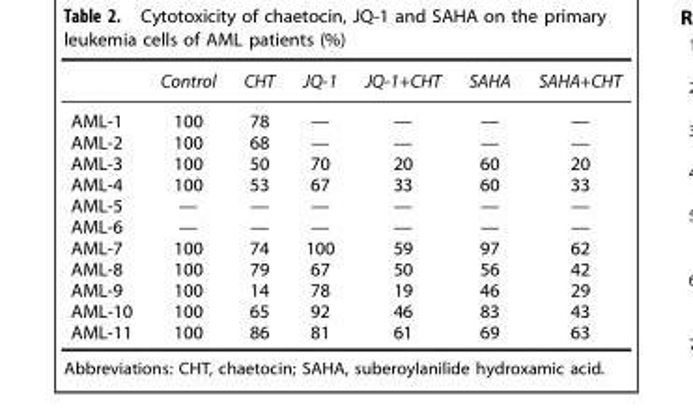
<table><thead><tr><td></td><td>Control</td><td>CHT</td><td>JQ-1</td><td>JQ-1+CHT</td><td>SAHA</td><td>SAHA+CHT</td></tr></thead><tbody><tr><td>AML-1</td><td>100</td><td>78</td><td>—</td><td>—</td><td>—</td><td>—</td></tr><tr><td>AML-2</td><td>100</td><td>68</td><td>—</td><td>—</td><td>—</td><td>—</td></tr><tr><td>AML-3</td><td>100</td><td>50</td><td>70</td><td>20</td><td>60</td><td>20</td></tr><tr><td>AML-4</td><td>100</td><td>53</td><td>67</td><td>33</td><td>60</td><td>33</td></tr><tr><td>AML-5</td><td>—</td><td>—</td><td>—</td><td>—</td><td>—</td><td>—</td></tr><tr><td>AML-6</td><td>—</td><td>—</td><td>—</td><td>—</td><td>—</td><td>—</td></tr><tr><td>AML-7</td><td>100</td><td>74</td><td>100</td><td>59</td><td>97</td><td>62</td></tr><tr><td>AML-8</td><td>100</td><td>79</td><td>67</td><td>50</td><td>56</td><td>42</td></tr><tr><td>AML-9</td><td>100</td><td>14</td><td>78</td><td>19</td><td>46</td><td>29</td></tr><tr><td>AML-10</td><td>100</td><td>65</td><td>92</td><td>46</td><td>83</td><td>43</td></tr><tr><td>AML-11</td><td>100</td><td>86</td><td>81</td><td>61</td><td>69</td><td>63</td></tr></tbody></table>